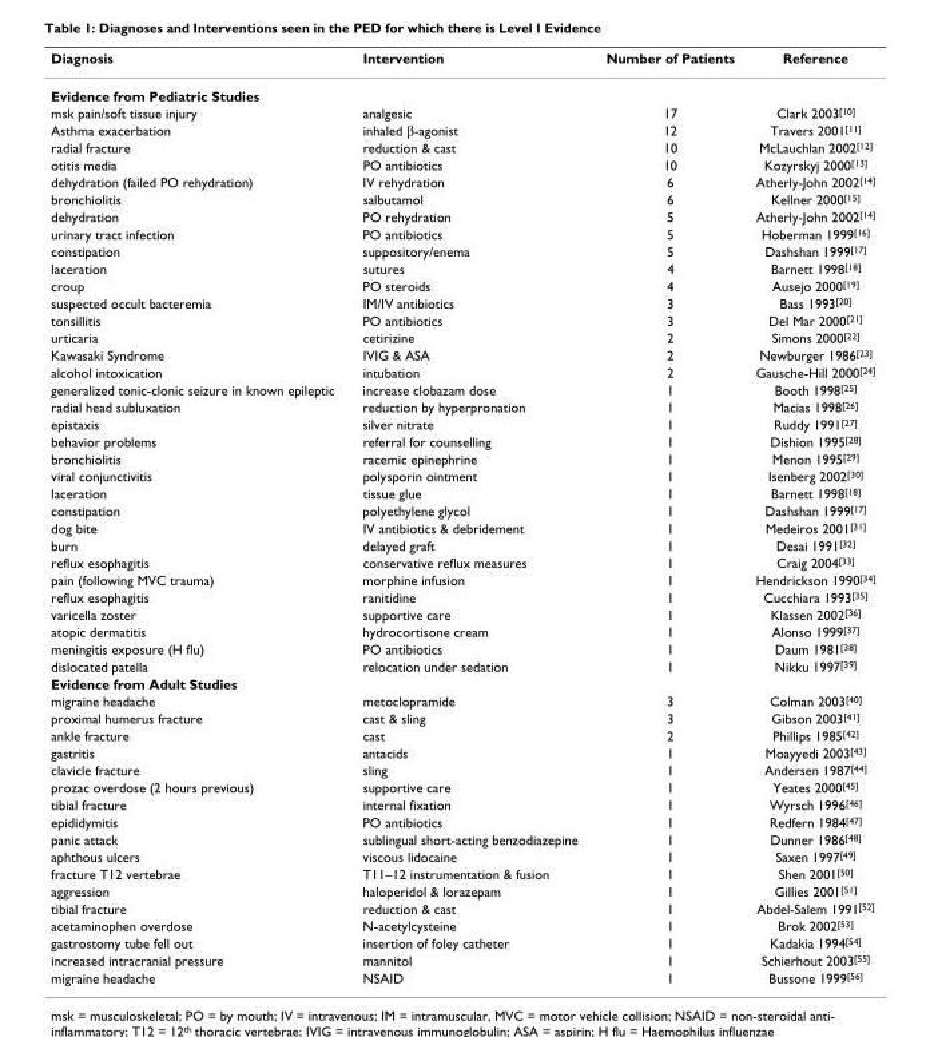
<table><thead><tr><td>Diagnosis</td><td>Intervention</td><td>Number of Patients</td><td>Reference</td></tr></thead><tbody><tr><td colspan="4">Evidence from Pediatric Studies</td></tr><tr><td>msk pain/soft tissue injury</td><td>analgesic</td><td>17</td><td>Clark 2003<sup>[10]</sup></td></tr><tr><td>Asthma exacerbation</td><td>inhaled β-agonist</td><td>12</td><td>Travers 2001<sup>[11]</sup></td></tr><tr><td>radial fracture</td><td>reduction &amp; cast</td><td>10</td><td>McLauchlan 2002<sup>[12]</sup></td></tr><tr><td>otitis media</td><td>PO antibiotics</td><td>10</td><td>Kozyrskyj 2000<sup>[13]</sup></td></tr><tr><td>dehydration (failed PO rehydration)</td><td>IV rehydration</td><td>6</td><td>Atherly-John 2002<sup>[14]</sup></td></tr><tr><td>bronchiolitis</td><td>salbutamol</td><td>6</td><td>Kellner 2000<sup>[15]</sup></td></tr><tr><td>dehydration</td><td>PO rehydration</td><td>5</td><td>Atherly-John 2002<sup>[14]</sup></td></tr><tr><td>urinary tract infection</td><td>PO antibiotics</td><td>5</td><td>Hoberman 1999<sup>[16]</sup></td></tr><tr><td>constipation</td><td>suppository/enema</td><td>5</td><td>Dashshan 1999<sup>[17]</sup></td></tr><tr><td>laceration</td><td>sutures</td><td>4</td><td>Barnett 1998<sup>[18]</sup></td></tr><tr><td>croup</td><td>PO steroids</td><td>4</td><td>Ausejo 2000<sup>[19]</sup></td></tr><tr><td>suspected occult bacteremia</td><td>IM/IV antibiotics</td><td>3</td><td>Bass 1993<sup>[20]</sup></td></tr><tr><td>tonsillitis</td><td>PO antibiotics</td><td>3</td><td>Del Mar 2000<sup>[21]</sup></td></tr><tr><td>urticaria</td><td>cetirizine</td><td>2</td><td>Simons 2000<sup>[22]</sup></td></tr><tr><td>Kawasaki Syndrome</td><td>IVIG &amp; ASA</td><td>2</td><td>Newburger 1986<sup>[23]</sup></td></tr><tr><td>alcohol intoxication</td><td>intubation</td><td>2</td><td>Gausche-Hill 2000<sup>[24]</sup></td></tr><tr><td>generalized tonic-clonic seizure in known epileptic</td><td>increase clobazam dose</td><td>1</td><td>Booth 1998<sup>[25]</sup></td></tr><tr><td>radial head subluxation</td><td>reduction by hyperpronation</td><td>1</td><td>Macias 1998<sup>[26]</sup></td></tr><tr><td>epistaxis</td><td>silver nitrate</td><td>1</td><td>Ruddy 1991<sup>[27]</sup></td></tr><tr><td>behavior problems</td><td>referral for counselling</td><td>1</td><td>Dishion 1995<sup>[28]</sup></td></tr><tr><td>bronchiolitis</td><td>racemic epinephrine</td><td>1</td><td>Menon 1995<sup>[29]</sup></td></tr><tr><td>viral conjunctivitis</td><td>polysporin ointment</td><td>1</td><td>Isenberg 2002<sup>[30]</sup></td></tr><tr><td>laceration</td><td>tissue glue</td><td>1</td><td>Barnett 1998<sup>[18]</sup></td></tr><tr><td>constipation</td><td>polyethylene glycol</td><td>1</td><td>Dashshan 1999<sup>[17]</sup></td></tr><tr><td>dog bite</td><td>IV antibiotics &amp; debridement</td><td>1</td><td>Medeiros 2001<sup>[31]</sup></td></tr><tr><td>burn</td><td>delayed graft</td><td>1</td><td>Desai 1991<sup>[32]</sup></td></tr><tr><td>reflux esophagitis</td><td>conservative reflux measures</td><td>1</td><td>Craig 2004<sup>[33]</sup></td></tr><tr><td>pain (following MVC trauma)</td><td>morphine infusion</td><td>1</td><td>Hendrickson 1990<sup>[34]</sup></td></tr><tr><td>reflux esophagitis</td><td>ranitidine</td><td>1</td><td>Cucchiara 1993<sup>[35]</sup></td></tr><tr><td>varicella zoster</td><td>supportive care</td><td>1</td><td>Klassen 2002<sup>[36]</sup></td></tr><tr><td>atopic dermatitis</td><td>hydrocortisone cream</td><td>1</td><td>Alonso 1999<sup>[37]</sup></td></tr><tr><td>meningitis exposure (H flu)</td><td>PO antibiotics</td><td>1</td><td>Daum 1981<sup>[38]</sup></td></tr><tr><td>dislocated patella</td><td>relocation under sedation</td><td>1</td><td>Nikku 1997<sup>[39]</sup></td></tr><tr><td colspan="4">Evidence from Adult Studies</td></tr><tr><td>migraine headache</td><td>metoclopramide</td><td>3</td><td>Colman 2003<sup>[40]</sup></td></tr><tr><td>proximal humerus fracture</td><td>cast &amp; sling</td><td>3</td><td>Gibson 2003<sup>[41]</sup></td></tr><tr><td>ankle fracture</td><td>cast</td><td>2</td><td>Phillips 1985<sup>[42]</sup></td></tr><tr><td>gastritis</td><td>antacids</td><td>1</td><td>Moayyedi 2003<sup>[43]</sup></td></tr><tr><td>clavicle fracture</td><td>sling</td><td>1</td><td>Andersen 1987<sup>[44]</sup></td></tr><tr><td>prozac overdose (2 hours previous)</td><td>supportive care</td><td>1</td><td>Yeates 2000<sup>[45]</sup></td></tr><tr><td>tibial fracture</td><td>internal fixation</td><td>1</td><td>Wyrsch 1996<sup>[46]</sup></td></tr><tr><td>epididymitis</td><td>PO antibiotics</td><td>1</td><td>Redfern 1984<sup>[47]</sup></td></tr><tr><td>panic attack</td><td>sublingual short-acting benzodiazepine</td><td>1</td><td>Dunner 1986<sup>[48]</sup></td></tr><tr><td>aphthous ulcers</td><td>viscous lidocaine</td><td>1</td><td>Saxen 1997<sup>[49]</sup></td></tr><tr><td>fracture T12 vertebrae</td><td>T11–12 instrumentation &amp; fusion</td><td>1</td><td>Shen 2001<sup>[50]</sup></td></tr><tr><td>aggression</td><td>haloperidol &amp; lorazepam</td><td>1</td><td>Gillies 2001<sup>[51]</sup></td></tr><tr><td>tibial fracture</td><td>reduction &amp; cast</td><td>1</td><td>Abdel-Salem 1991<sup>[52]</sup></td></tr><tr><td>acetaminophen overdose</td><td>N-acetylcysteine</td><td>1</td><td>Brok 2002<sup>[53]</sup></td></tr><tr><td>gastrostomy tube fell out</td><td>insertion of foley catheter</td><td>1</td><td>Kadakia 1994<sup>[54]</sup></td></tr><tr><td>increased intracranial pressure</td><td>mannitol</td><td>1</td><td>Schierhout 2003<sup>[55]</sup></td></tr><tr><td>migraine headache</td><td>NSAID</td><td>1</td><td>Bussone 1999<sup>[56]</sup></td></tr></tbody></table>